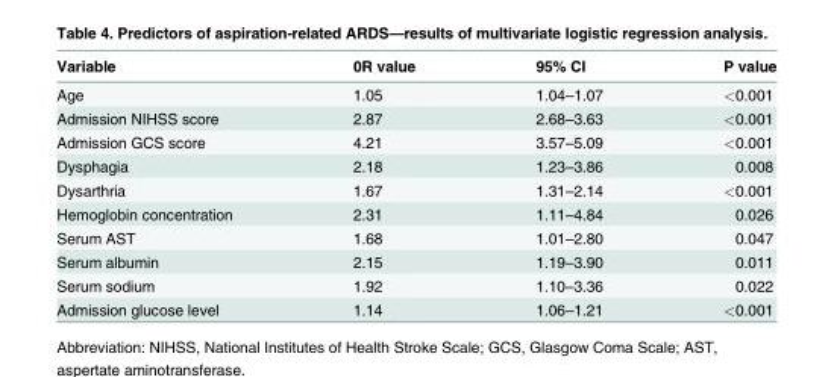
<table><thead><tr><td>Variable</td><td>0R value</td><td>95% CI</td><td>P value</td></tr></thead><tbody><tr><td>Age</td><td>1.05</td><td>1.04–1.07</td><td>&lt;0.001</td></tr><tr><td>Admission NIHSS score</td><td>2.87</td><td>2.68–3.63</td><td>&lt;0.001</td></tr><tr><td>Admission GCS score</td><td>4.21</td><td>3.57–5.09</td><td>&lt;0.001</td></tr><tr><td>Dysphagia</td><td>2.18</td><td>1.23–3.86</td><td>0.008</td></tr><tr><td>Dysarthria</td><td>1.67</td><td>1.31–2.14</td><td>&lt;0.001</td></tr><tr><td>Hemoglobin concentration</td><td>2.31</td><td>1.11–4.84</td><td>0.026</td></tr><tr><td>Serum AST</td><td>1.68</td><td>1.01–2.80</td><td>0.047</td></tr><tr><td>Serum albumin</td><td>2.15</td><td>1.19–3.90</td><td>0.011</td></tr><tr><td>Serum sodium</td><td>1.92</td><td>1.10–3.36</td><td>0.022</td></tr><tr><td>Admission glucose level</td><td>1.14</td><td>1.06–1.21</td><td>&lt;0.001</td></tr></tbody></table>